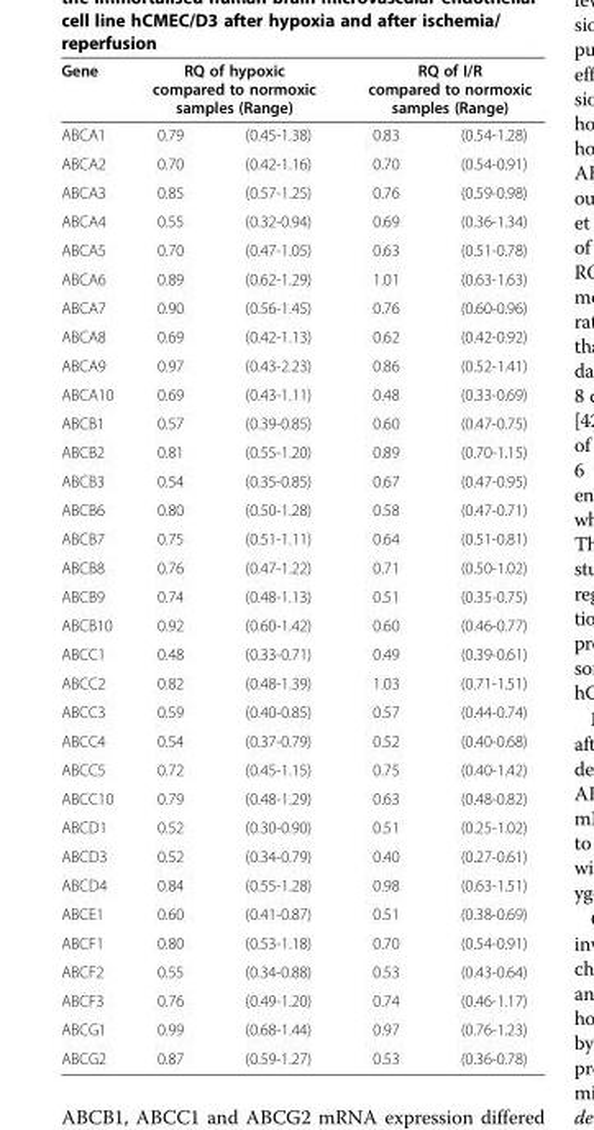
<table><thead><tr><td rowspan="2">Gene ABCA1</td><td colspan="2">RQ of hypoxic compared to normoxic samples (Range)</td><td colspan="2">RQ of I/R compared to normoxic samples (Range)</td></tr><tr><td>0.79</td><td>(0.45-1.38)</td><td>0.83</td><td>(0.54-1.28)</td></tr></thead><tbody><tr><td>ABCA2</td><td>0.70</td><td>(0.42-1.16)</td><td>0.70</td><td>(0.54-0.91)</td></tr><tr><td>ABCA3</td><td>0.85</td><td>(0.57-1.25)</td><td>0.76</td><td>(0.59-0.98)</td></tr><tr><td>ABCA4</td><td>0.55</td><td>(0.32-0.94)</td><td>0.69</td><td>(0.36-1.34)</td></tr><tr><td>ABCA5</td><td>0.70</td><td>(0.47-1.05)</td><td>0.63</td><td>(0.51-0.78)</td></tr><tr><td>ABCA6</td><td>0.89</td><td>(0.62-1.29)</td><td>1.01</td><td>(0.63-1.63)</td></tr><tr><td>ABCA7</td><td>0.90</td><td>(0.56-1.45)</td><td>0.76</td><td>(0.60-0.96)</td></tr><tr><td>ABCA8</td><td>0.69</td><td>(0.42-1.13)</td><td>0.62</td><td>(0.42-0.92)</td></tr><tr><td>ABCA9</td><td>0.97</td><td>(0.43-2.23)</td><td>0.86</td><td>(0.52-1.41)</td></tr><tr><td>ABCA10</td><td>0.69</td><td>(0.43-1.11)</td><td>0.48</td><td>(0.33-0.69)</td></tr><tr><td>ABCB1</td><td>0.57</td><td>(0.39-0.85)</td><td>0.60</td><td>(0.47-0.75)</td></tr><tr><td>ABCB2</td><td>0.81</td><td>(0.55-1.20)</td><td>0.89</td><td>(0.70-1.15)</td></tr><tr><td>ABCB3</td><td>0.54</td><td>(0.35-0.85)</td><td>0.67</td><td>(0.47-0.95)</td></tr><tr><td>ABCB6</td><td>0.80</td><td>(0.50-1.28)</td><td>0.58</td><td>(0.47-0.71)</td></tr><tr><td>ABCB7</td><td>0.75</td><td>(0.51-1.11)</td><td>0.64</td><td>(0.51-0.81)</td></tr><tr><td>ABCB8</td><td>0.76</td><td>(0.47-1.22)</td><td>0.71</td><td>(0.50-1.02)</td></tr><tr><td>ABCB9</td><td>0.74</td><td>(0.48-1.13)</td><td>0.51</td><td>(0.35-0.75)</td></tr><tr><td>ABCB10</td><td>0.92</td><td>(0.60-1.42)</td><td>0.60</td><td>(0.46-0.77)</td></tr><tr><td>ABCC1</td><td>0.48</td><td>(0.33-0.71)</td><td>0.49</td><td>(0.39-0.61)</td></tr><tr><td>ABCC2</td><td>0.82</td><td>(0.48-1.39)</td><td>1.03</td><td>(0.71-1.51)</td></tr><tr><td>ABCC3</td><td>0.59</td><td>(0.40-0.85)</td><td>0.57</td><td>(0.44-0.74)</td></tr><tr><td>ABCC4</td><td>0.54</td><td>(0.37-0.79)</td><td>0.52</td><td>(0.40-0.68)</td></tr><tr><td>ABCC5</td><td>0.72</td><td>(0.45-1.15)</td><td>0.75</td><td>(0.40-1.42)</td></tr><tr><td>ABCC10</td><td>0.79</td><td>(0.48-1.29)</td><td>0.63</td><td>(0.48-0.82)</td></tr><tr><td>ABCD1</td><td>0.52</td><td>(0.30-0.90)</td><td>0.51</td><td>(0.25-1.02)</td></tr><tr><td>ABCD3</td><td>0.52</td><td>(0.34-0.79)</td><td>0.40</td><td>(0.27-0.61)</td></tr><tr><td>ABCD4</td><td>0.84</td><td>(0.55-1.28)</td><td>0.98</td><td>(0.63-1.51)</td></tr><tr><td>ABCE1</td><td>0.60</td><td>(0.41-0.87)</td><td>0.51</td><td>(0.38-0.69)</td></tr><tr><td>ABCF1</td><td>0.80</td><td>(0.53-1.18)</td><td>0.70</td><td>(0.54-0.91)</td></tr><tr><td>ABCF2</td><td>0.55</td><td>(0.34-0.88)</td><td>0.53</td><td>(0.43-0.64)</td></tr><tr><td>ABCF3</td><td>0.76</td><td>(0.49-1.20)</td><td>0.74</td><td>(0.46-1.17)</td></tr><tr><td>ABCG1</td><td>0.99</td><td>(0.68-1.44)</td><td>0.97</td><td>(0.76-1.23)</td></tr><tr><td>ABCG2</td><td>0.87</td><td>(0.59-1.27)</td><td>0.53</td><td>(0.36-0.78)</td></tr></tbody></table>